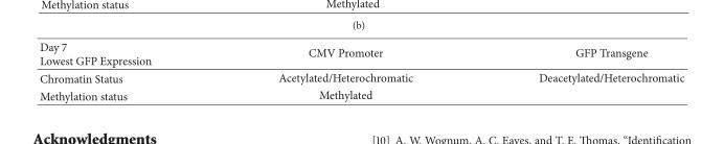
<table><tbody><tr><td>Day 7 Lowest GFP Expression</td><td>CMV Promoter</td><td>GFP Transgene</td></tr><tr><td>Chromatin Status</td><td>Acetylated/Heterochromatic</td><td>Deacetylated/Heterochromatic</td></tr><tr><td>Methylation status</td><td>Methylated</td><td></td></tr></tbody></table>